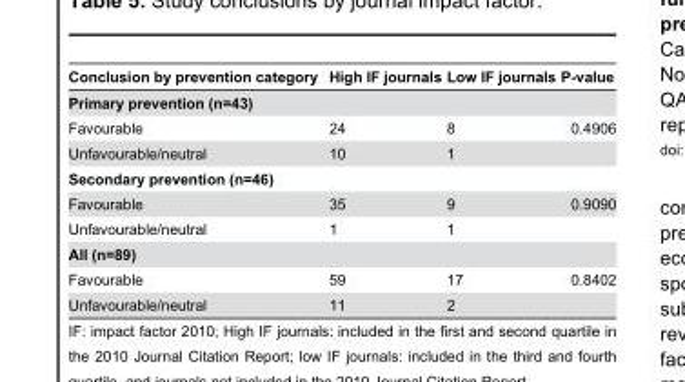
<table><thead><tr><td>Conclusion by prevention category</td><td>High IF journals</td><td>Low IF journals</td><td>P-value</td></tr></thead><tbody><tr><td colspan="4">Primary prevention (n=43)</td></tr><tr><td>Favourable</td><td>24</td><td>8</td><td>0.4906</td></tr><tr><td>Unfavourable/neutral</td><td>10</td><td>1</td><td></td></tr><tr><td colspan="4">Secondary prevention (n=46)</td></tr><tr><td>Favourable</td><td>35</td><td>9</td><td>0.9090</td></tr><tr><td>Unfavourable/neutral</td><td>1</td><td>1</td><td></td></tr><tr><td colspan="4">All (n=89)</td></tr><tr><td>Favourable</td><td>59</td><td>17</td><td>0.8402</td></tr><tr><td>Unfavourable/neutral</td><td>11</td><td>2</td><td></td></tr></tbody></table>